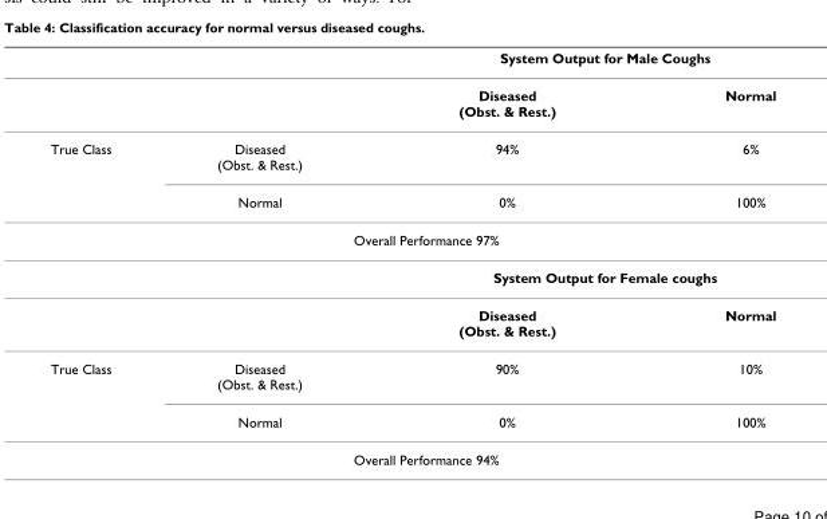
<table><thead><tr><td rowspan="2"></td><td rowspan="2"></td><td colspan="2">System Output for Male Coughs</td></tr><tr><td>Diseased (Obst. &amp; Rest.)</td><td>Normal</td></tr></thead><tbody><tr><td rowspan="2">True Class</td><td>Diseased (Obst. &amp; Rest.)</td><td>94%</td><td>6%</td></tr><tr><td>Normal</td><td>0%</td><td>100%</td></tr><tr><td colspan="4">Overall Performance 97%</td></tr><tr><td></td><td></td><td colspan="2">System Output for Female coughs</td></tr><tr><td></td><td></td><td>Diseased (Obst. &amp; Rest.)</td><td>Normal</td></tr><tr><td rowspan="2">True Class</td><td>Diseased (Obst. &amp; Rest.)</td><td>90%</td><td>10%</td></tr><tr><td>Normal</td><td>0%</td><td>100%</td></tr><tr><td colspan="4">Overall Performance 94%</td></tr></tbody></table>